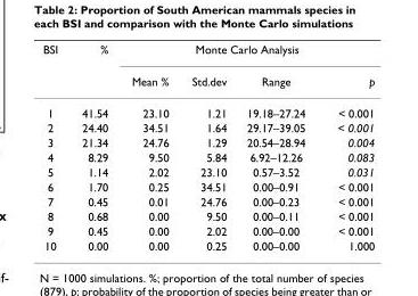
<table><thead><tr><td rowspan="2">BSI</td><td rowspan="2">%</td><td colspan="4">Monte Carlo Analysis</td></tr><tr><td>Mean %</td><td>Std.dev</td><td>Range</td><td>p</td></tr></thead><tbody><tr><td>1</td><td>41.54</td><td>23.10</td><td>1.21</td><td>19.18–27.24</td><td>&lt; 0.001</td></tr><tr><td>2</td><td>24.40</td><td>34.51</td><td>1.64</td><td>29.17–39.05</td><td>&lt; 0.001</td></tr><tr><td>3</td><td>21.34</td><td>24.76</td><td>1.29</td><td>20.54–28.94</td><td>0.004</td></tr><tr><td>4</td><td>8.29</td><td>9.50</td><td>5.84</td><td>6.92–12.26</td><td>0.083</td></tr><tr><td>5</td><td>1.14</td><td>2.02</td><td>23.10</td><td>0.57–3.52</td><td>0.031</td></tr><tr><td>6</td><td>1.70</td><td>0.25</td><td>34.51</td><td>0.00–0.91</td><td>&lt; 0.001</td></tr><tr><td>7</td><td>0.45</td><td>0.01</td><td>24.76</td><td>0.00–0.23</td><td>&lt; 0.001</td></tr><tr><td>8</td><td>0.68</td><td>0.00</td><td>9.50</td><td>0.00–0.11</td><td>&lt; 0.001</td></tr><tr><td>9</td><td>0.45</td><td>0.00</td><td>2.02</td><td>0.00–0.00</td><td>&lt; 0.001</td></tr><tr><td>10</td><td>0.00</td><td>0.00</td><td>0.25</td><td>0.00–0.00</td><td>1.000</td></tr></tbody></table>